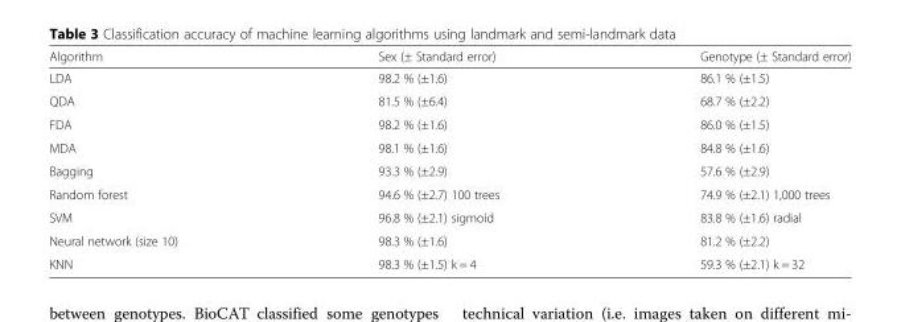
<table><thead><tr><td>Algorithm</td><td>Sex (± Standard error)</td><td>Genotype (± Standard error)</td></tr></thead><tbody><tr><td>LDA</td><td>98.2 % (±1.6)</td><td>86.1 % (±1.5)</td></tr><tr><td>QDA</td><td>81.5 % (±6.4)</td><td>68.7 % (±2.2)</td></tr><tr><td>FDA</td><td>98.2 % (±1.6)</td><td>86.0 % (±1.5)</td></tr><tr><td>MDA</td><td>98.1 % (±1.6)</td><td>84.8 % (±1.6)</td></tr><tr><td>Bagging</td><td>93.3 % (±2.9)</td><td>57.6 % (±2.9)</td></tr><tr><td>Random forest</td><td>94.6 % (±2.7) 100 trees</td><td>74.9 % (±2.1) 1,000 trees</td></tr><tr><td>SVM</td><td>96.8 % (±2.1) sigmoid</td><td>83.8 % (±1.6) radial</td></tr><tr><td>Neural network (size 10)</td><td>98.3 % (±1.6)</td><td>81.2 % (±2.2)</td></tr><tr><td>KNN</td><td>98.3 % (±1.5) k = 4</td><td>59.3 % (±2.1) k = 32</td></tr></tbody></table>